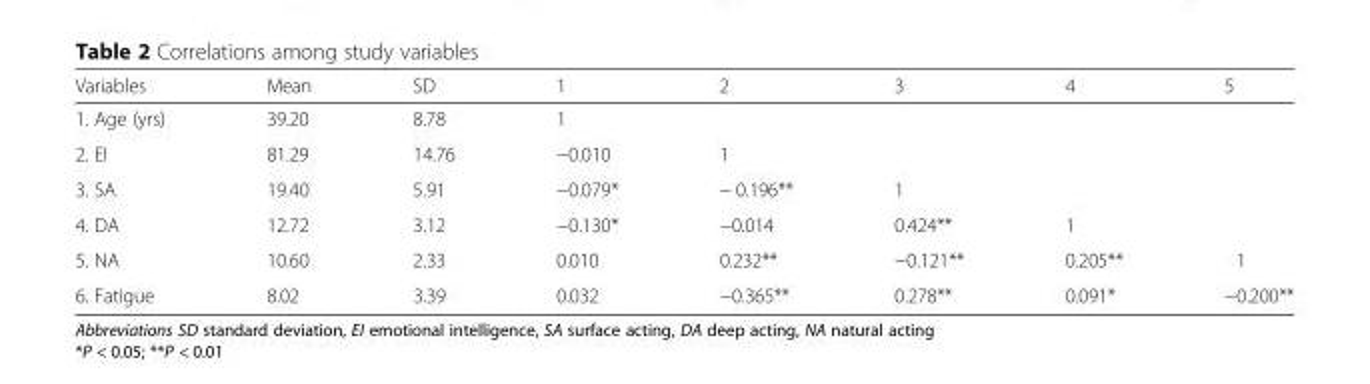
<table><thead><tr><td>Variables</td><td>Mean</td><td>SD</td><td>1</td><td>2</td><td>3</td><td>4</td><td>5</td></tr></thead><tbody><tr><td>1. Age (yrs)</td><td>39.20</td><td>8.78</td><td>1</td><td></td><td></td><td></td><td></td></tr><tr><td>2. EI</td><td>81.29</td><td>14.76</td><td>−0.010</td><td>1</td><td></td><td></td><td></td></tr><tr><td>3. SA</td><td>19.40</td><td>5.91</td><td>−0.079*</td><td>− 0.196**</td><td>1</td><td></td><td></td></tr><tr><td>4. DA</td><td>12.72</td><td>3.12</td><td>−0.130*</td><td>−0.014</td><td>0.424**</td><td>1</td><td></td></tr><tr><td>5. NA</td><td>10.60</td><td>2.33</td><td>0.010</td><td>0.232**</td><td>−0.121**</td><td>0.205**</td><td>1</td></tr><tr><td>6. Fatigue</td><td>8.02</td><td>3.39</td><td>0.032</td><td>−0.365**</td><td>0.278**</td><td>0.091*</td><td>−0.200**</td></tr></tbody></table>